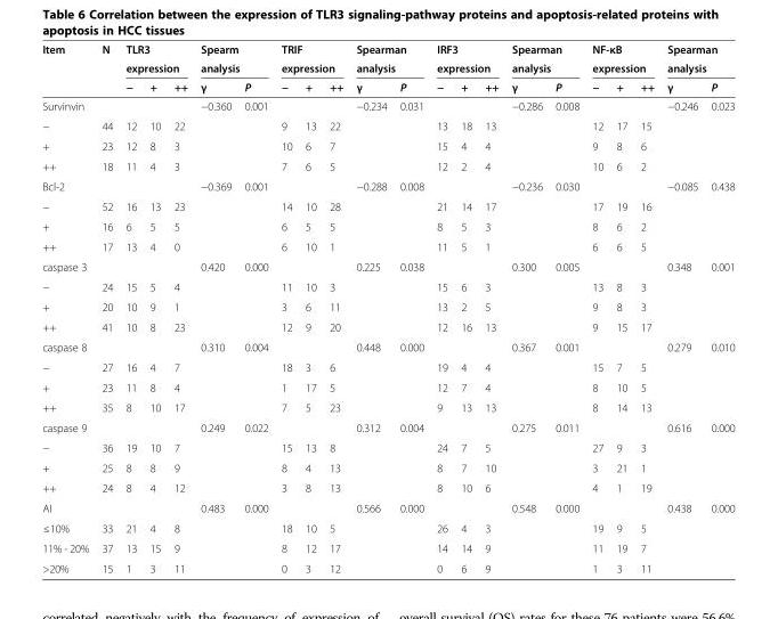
<table><thead><tr><td rowspan="3">Item</td><td rowspan="3">N</td><td rowspan="2" colspan="3">TLR3 expression</td><td rowspan="2" colspan="2">Spearm analysis</td><td rowspan="2" colspan="3">TRIF expression</td><td rowspan="2" colspan="2">Spearman analysis</td><td rowspan="2" colspan="3">IRF3 expression</td><td rowspan="2" colspan="2">Spearman analysis</td><td rowspan="2" colspan="3">NF-κB expression</td><td rowspan="2" colspan="2">Spearman analysis</td></tr><tr></tr><tr><td>−</td><td>+</td><td>++</td><td>γ</td><td>P</td><td>−</td><td>+</td><td>++</td><td>γ</td><td>P</td><td>−</td><td>+</td><td>++</td><td>γ</td><td>P</td><td>−</td><td>+</td><td>++</td><td>γ</td><td>P</td></tr></thead><tbody><tr><td>Survinvin</td><td></td><td></td><td></td><td></td><td>−0.360</td><td>0.001</td><td></td><td></td><td></td><td>−0.234</td><td>0.031</td><td></td><td></td><td></td><td>−0.286</td><td>0.008</td><td></td><td></td><td></td><td>−0.246</td><td>0.023</td></tr><tr><td>−</td><td>44</td><td>12</td><td>10</td><td>22</td><td></td><td></td><td>9</td><td>13</td><td>22</td><td></td><td></td><td>13</td><td>18</td><td>13</td><td></td><td></td><td>12</td><td>17</td><td>15</td><td></td><td></td></tr><tr><td>+</td><td>23</td><td>12</td><td>8</td><td>3</td><td></td><td></td><td>10</td><td>6</td><td>7</td><td></td><td></td><td>15</td><td>4</td><td>4</td><td></td><td></td><td>9</td><td>8</td><td>6</td><td></td><td></td></tr><tr><td>++</td><td>18</td><td>11</td><td>4</td><td>3</td><td></td><td></td><td>7</td><td>6</td><td>5</td><td></td><td></td><td>12</td><td>2</td><td>4</td><td></td><td></td><td>10</td><td>6</td><td>2</td><td></td><td></td></tr><tr><td>Bcl-2</td><td></td><td></td><td></td><td></td><td>−0.369</td><td>0.001</td><td></td><td></td><td></td><td>−0.288</td><td>0.008</td><td></td><td></td><td></td><td>−0.236</td><td>0.030</td><td></td><td></td><td></td><td>−0.085</td><td>0.438</td></tr><tr><td>−</td><td>52</td><td>16</td><td>13</td><td>23</td><td></td><td></td><td>14</td><td>10</td><td>28</td><td></td><td></td><td>21</td><td>14</td><td>17</td><td></td><td></td><td>17</td><td>19</td><td>16</td><td></td><td></td></tr><tr><td>+</td><td>16</td><td>6</td><td>5</td><td>5</td><td></td><td></td><td>6</td><td>5</td><td>5</td><td></td><td></td><td>8</td><td>5</td><td>3</td><td></td><td></td><td>8</td><td>6</td><td>2</td><td></td><td></td></tr><tr><td>++</td><td>17</td><td>13</td><td>4</td><td>0</td><td></td><td></td><td>6</td><td>10</td><td>1</td><td></td><td></td><td>11</td><td>5</td><td>1</td><td></td><td></td><td>6</td><td>6</td><td>5</td><td></td><td></td></tr><tr><td>caspase 3</td><td></td><td></td><td></td><td></td><td>0.420</td><td>0.000</td><td></td><td></td><td></td><td>0.225</td><td>0.038</td><td></td><td></td><td></td><td>0.300</td><td>0.005</td><td></td><td></td><td></td><td>0.348</td><td>0.001</td></tr><tr><td>−</td><td>24</td><td>15</td><td>5</td><td>4</td><td></td><td></td><td>11</td><td>10</td><td>3</td><td></td><td></td><td>15</td><td>6</td><td>3</td><td></td><td></td><td>13</td><td>8</td><td>3</td><td></td><td></td></tr><tr><td>+</td><td>20</td><td>10</td><td>9</td><td>1</td><td></td><td></td><td>3</td><td>6</td><td>11</td><td></td><td></td><td>13</td><td>2</td><td>5</td><td></td><td></td><td>9</td><td>8</td><td>3</td><td></td><td></td></tr><tr><td>++</td><td>41</td><td>10</td><td>8</td><td>23</td><td></td><td></td><td>12</td><td>9</td><td>20</td><td></td><td></td><td>12</td><td>16</td><td>13</td><td></td><td></td><td>9</td><td>15</td><td>17</td><td></td><td></td></tr><tr><td>caspase 8</td><td></td><td></td><td></td><td></td><td>0.310</td><td>0.004</td><td></td><td></td><td></td><td>0.448</td><td>0.000</td><td></td><td></td><td></td><td>0.367</td><td>0.001</td><td></td><td></td><td></td><td>0.279</td><td>0.010</td></tr><tr><td>−</td><td>27</td><td>16</td><td>4</td><td>7</td><td></td><td></td><td>18</td><td>3</td><td>6</td><td></td><td></td><td>19</td><td>4</td><td>4</td><td></td><td></td><td>15</td><td>7</td><td>5</td><td></td><td></td></tr><tr><td>+</td><td>23</td><td>11</td><td>8</td><td>4</td><td></td><td></td><td>1</td><td>17</td><td>5</td><td></td><td></td><td>12</td><td>7</td><td>4</td><td></td><td></td><td>8</td><td>10</td><td>5</td><td></td><td></td></tr><tr><td>++</td><td>35</td><td>8</td><td>10</td><td>17</td><td></td><td></td><td>7</td><td>5</td><td>23</td><td></td><td></td><td>9</td><td>13</td><td>13</td><td></td><td></td><td>8</td><td>14</td><td>13</td><td></td><td></td></tr><tr><td>caspase 9</td><td></td><td></td><td></td><td></td><td>0.249</td><td>0.022</td><td></td><td></td><td></td><td>0.312</td><td>0.004</td><td></td><td></td><td></td><td>0.275</td><td>0.011</td><td></td><td></td><td></td><td>0.616</td><td>0.000</td></tr><tr><td>−</td><td>36</td><td>19</td><td>10</td><td>7</td><td></td><td></td><td>15</td><td>13</td><td>8</td><td></td><td></td><td>24</td><td>7</td><td>5</td><td></td><td></td><td>27</td><td>9</td><td>3</td><td></td><td></td></tr><tr><td>+</td><td>25</td><td>8</td><td>8</td><td>9</td><td></td><td></td><td>8</td><td>4</td><td>13</td><td></td><td></td><td>8</td><td>7</td><td>10</td><td></td><td></td><td>3</td><td>21</td><td>1</td><td></td><td></td></tr><tr><td>++</td><td>24</td><td>8</td><td>4</td><td>12</td><td></td><td></td><td>3</td><td>8</td><td>13</td><td></td><td></td><td>8</td><td>10</td><td>6</td><td></td><td></td><td>4</td><td>1</td><td>19</td><td></td><td></td></tr><tr><td>AI</td><td></td><td></td><td></td><td></td><td>0.483</td><td>0.000</td><td></td><td></td><td></td><td>0.566</td><td>0.000</td><td></td><td></td><td></td><td>0.548</td><td>0.000</td><td></td><td></td><td></td><td>0.438</td><td>0.000</td></tr><tr><td>≤10%</td><td>33</td><td>21</td><td>4</td><td>8</td><td></td><td></td><td>18</td><td>10</td><td>5</td><td></td><td></td><td>26</td><td>4</td><td>3</td><td></td><td></td><td>19</td><td>9</td><td>5</td><td></td><td></td></tr><tr><td>11% - 20%</td><td>37</td><td>13</td><td>15</td><td>9</td><td></td><td></td><td>8</td><td>12</td><td>17</td><td></td><td></td><td>14</td><td>14</td><td>9</td><td></td><td></td><td>11</td><td>19</td><td>7</td><td></td><td></td></tr><tr><td>&gt;20%</td><td>15</td><td>1</td><td>3</td><td>11</td><td></td><td></td><td>0</td><td>3</td><td>12</td><td></td><td></td><td>0</td><td>6</td><td>9</td><td></td><td></td><td>1</td><td>3</td><td>11</td><td></td><td></td></tr></tbody></table>